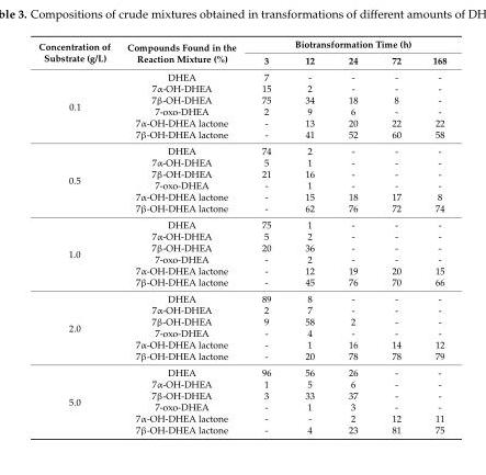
<table><thead><tr><td rowspan="2">Concentration of Substrate (g/L)</td><td rowspan="2">Compounds Found in the Reaction Mixture (%)</td><td colspan="5">Biotransformation Time (h)</td></tr><tr><td>3</td><td>12</td><td>24</td><td>72</td><td>168</td></tr></thead><tbody><tr><td rowspan="6">0.1</td><td>DHEA</td><td>7</td><td>-</td><td>-</td><td>-</td><td>-</td></tr><tr><td>7α-OH-DHEA</td><td>15</td><td>2</td><td>-</td><td>-</td><td>-</td></tr><tr><td>7β-OH-DHEA</td><td>75</td><td>34</td><td>18</td><td>8</td><td>-</td></tr><tr><td>7-oxo-DHEA</td><td>2</td><td>9</td><td>6</td><td>-</td><td>-</td></tr><tr><td>7α-OH-DHEA lactone</td><td>-</td><td>13</td><td>20</td><td>22</td><td>22</td></tr><tr><td>7β-OH-DHEA lactone</td><td>-</td><td>41</td><td>52</td><td>60</td><td>58</td></tr><tr><td rowspan="6">0.5</td><td>DHEA</td><td>74</td><td>2</td><td>-</td><td>-</td><td>-</td></tr><tr><td>7α-OH-DHEA</td><td>5</td><td>1</td><td>-</td><td>-</td><td>-</td></tr><tr><td>7β-OH-DHEA</td><td>21</td><td>16</td><td>-</td><td>-</td><td>-</td></tr><tr><td>7-oxo-DHEA</td><td>-</td><td>1</td><td>-</td><td>-</td><td>-</td></tr><tr><td>7α-OH-DHEA lactone</td><td>-</td><td>15</td><td>18</td><td>17</td><td>8</td></tr><tr><td>7β-OH-DHEA lactone</td><td>-</td><td>62</td><td>76</td><td>72</td><td>74</td></tr><tr><td rowspan="6">1.0</td><td>DHEA</td><td>75</td><td>1</td><td>-</td><td>-</td><td>-</td></tr><tr><td>7α-OH-DHEA</td><td>5</td><td>2</td><td>-</td><td>-</td><td>-</td></tr><tr><td>7β-OH-DHEA</td><td>20</td><td>36</td><td>-</td><td>-</td><td>-</td></tr><tr><td>7-oxo-DHEA</td><td>-</td><td>2</td><td>-</td><td>-</td><td>-</td></tr><tr><td>7α-OH-DHEA lactone</td><td>-</td><td>12</td><td>19</td><td>20</td><td>15</td></tr><tr><td>7β-OH-DHEA lactone</td><td>-</td><td>45</td><td>76</td><td>70</td><td>66</td></tr><tr><td rowspan="6">2.0</td><td>DHEA</td><td>89</td><td>8</td><td>-</td><td>-</td><td>-</td></tr><tr><td>7α-OH-DHEA</td><td>2</td><td>7</td><td>-</td><td>-</td><td>-</td></tr><tr><td>7β-OH-DHEA</td><td>9</td><td>58</td><td>2</td><td>-</td><td>-</td></tr><tr><td>7-oxo-DHEA</td><td>-</td><td>4</td><td>-</td><td>-</td><td>-</td></tr><tr><td>7α-OH-DHEA lactone</td><td>-</td><td>1</td><td>16</td><td>14</td><td>12</td></tr><tr><td>7β-OH-DHEA lactone</td><td>-</td><td>20</td><td>78</td><td>78</td><td>79</td></tr><tr><td rowspan="6">5.0</td><td>DHEA</td><td>96</td><td>56</td><td>26</td><td>-</td><td>-</td></tr><tr><td>7α-OH-DHEA</td><td>1</td><td>5</td><td>6</td><td>-</td><td>-</td></tr><tr><td>7β-OH-DHEA</td><td>3</td><td>33</td><td>37</td><td>-</td><td>-</td></tr><tr><td>7-oxo-DHEA</td><td>-</td><td>1</td><td>3</td><td>-</td><td>-</td></tr><tr><td>7α-OH-DHEA lactone</td><td>-</td><td>-</td><td>2</td><td>12</td><td>11</td></tr><tr><td>7β-OH-DHEA lactone</td><td>-</td><td>4</td><td>23</td><td>81</td><td>75</td></tr></tbody></table>